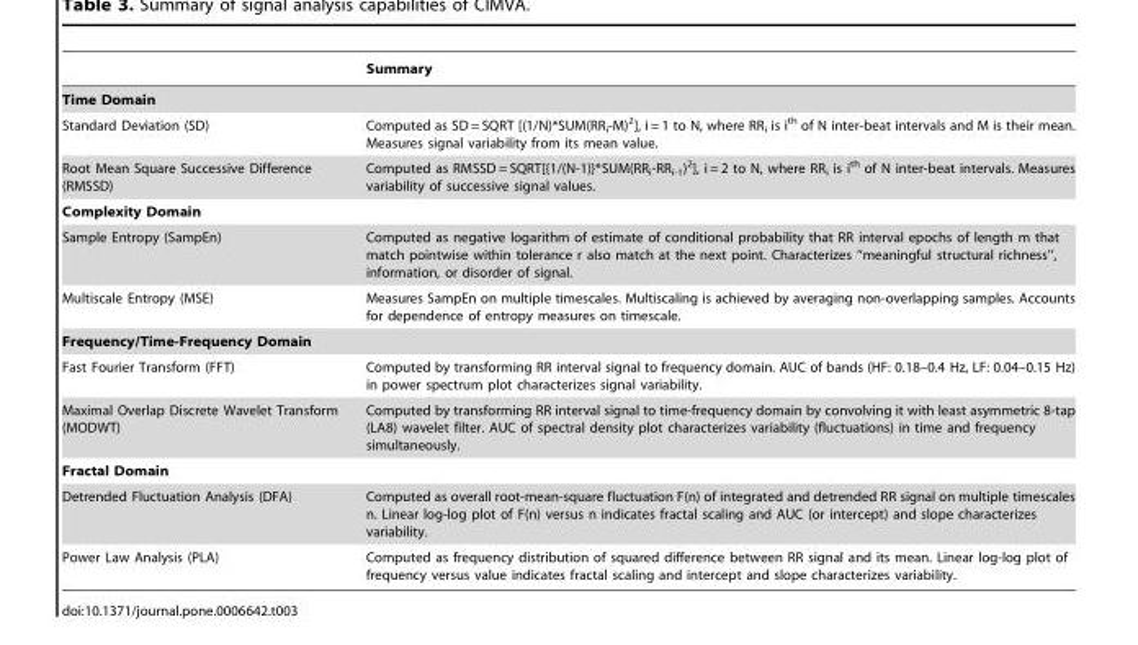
<table><thead><tr><td></td><td>Summary</td></tr></thead><tbody><tr><td colspan="2">Time Domain</td></tr><tr><td>Standard Deviation (SD)</td><td>Computed as SD = SQRT [(1/N)*SUM(RR<sub>i</sub>-M)<sup>2</sup>], i = 1 to N, where RR<sub>i</sub> is i<sup>th</sup> of N inter-beat intervals and M is their mean. Measures signal variability from its mean value.</td></tr><tr><td>Root Mean Square Successive Difference (RMSSD)</td><td>Computed as RMSSD = SQRT[{1/(N-1)}*SUM(RR<sub>i</sub>-RR<sub>i-1</sub>)<sup>2</sup>], i = 2 to N, where RR<sub>i</sub> is i<sup>th</sup> of N inter-beat intervals. Measures variability of successive signal values.</td></tr><tr><td colspan="2">Complexity Domain</td></tr><tr><td>Sample Entropy (SampEn)</td><td>Computed as negative logarithm of estimate of conditional probability that RR interval epochs of length m that match pointwise within tolerance r also match at the next point. Characterizes ‘‘meaningful structural richness’’, information, or disorder of signal.</td></tr><tr><td>Multiscale Entropy (MSE)</td><td>Measures SampEn on multiple timescales. Multiscaling is achieved by averaging non-overlapping samples. Accounts for dependence of entropy measures on timescale.</td></tr><tr><td colspan="2">Frequency/Time-Frequency Domain</td></tr><tr><td>Fast Fourier Transform (FFT)</td><td>Computed by transforming RR interval signal to frequency domain. AUC of bands (HF: 0.18–0.4 Hz, LF: 0.04–0.15 Hz) in power spectrum plot characterizes signal variability.</td></tr><tr><td>Maximal Overlap Discrete Wavelet Transform (MODWT)</td><td>Computed by transforming RR interval signal to time-frequency domain by convolving it with least asymmetric 8-tap (LA8) wavelet filter. AUC of spectral density plot characterizes variability (fluctuations) in time and frequency simultaneously.</td></tr><tr><td colspan="2">Fractal Domain</td></tr><tr><td>Detrended Fluctuation Analysis (DFA)</td><td>Computed as overall root-mean-square fluctuation F(n) of integrated and detrended RR signal on multiple timescales n. Linear log-log plot of F(n) versus n indicates fractal scaling and AUC (or intercept) and slope characterizes variability.</td></tr><tr><td>Power Law Analysis (PLA)</td><td>Computed as frequency distribution of squared difference between RR signal and its mean. Linear log-log plot of frequency versus value indicates fractal scaling and intercept and slope characterizes variability.</td></tr></tbody></table>